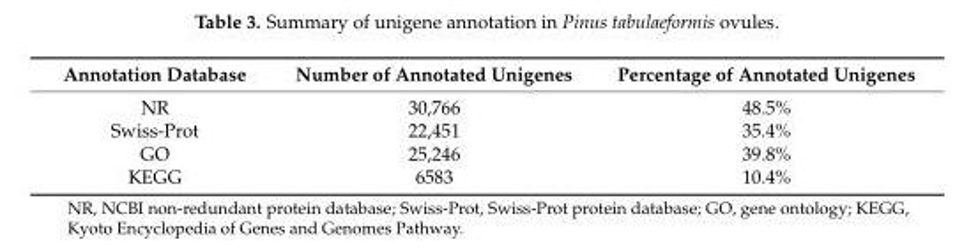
<table><thead><tr><td>Annotation Database</td><td>Number of Annotated Unigenes</td><td>Percentage of Annotated Unigenes</td></tr></thead><tbody><tr><td>NR</td><td>30,766</td><td>48.5%</td></tr><tr><td>Swiss-Prot</td><td>22,451</td><td>35.4%</td></tr><tr><td>GO</td><td>25,246</td><td>39.8%</td></tr><tr><td>KEGG</td><td>6583</td><td>10.4%</td></tr></tbody></table>